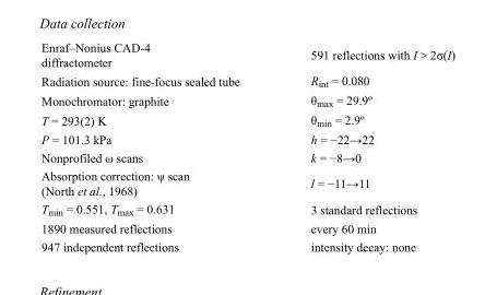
<table><tbody><tr><td>Enraf–Nonius CAD-4 diffractometer</td><td>591 reflections with I &gt; 2σ(I)</td></tr><tr><td>Radiation source: fine-focus sealed tube</td><td>R<sub>int</sub> = 0.080</td></tr><tr><td>Monochromator: graphite</td><td>θ<sub>max</sub> = 29.9º</td></tr><tr><td>T = 293(2) K</td><td>θ<sub>min</sub> = 2.9º</td></tr><tr><td>P = 101.3 kPa</td><td>h = −22→22</td></tr><tr><td>Nonprofiled ω scans</td><td>k = −8→0</td></tr><tr><td>Absorption correction: ψ scan (North et al., 1968)</td><td>l = −11→11</td></tr><tr><td>T<sub>min</sub> = 0.551, T<sub>max</sub> = 0.631</td><td>3 standard reflections</td></tr><tr><td>1890 measured reflections</td><td>every 60 min</td></tr><tr><td>947 independent reflections</td><td>intensity decay: none</td></tr></tbody></table>